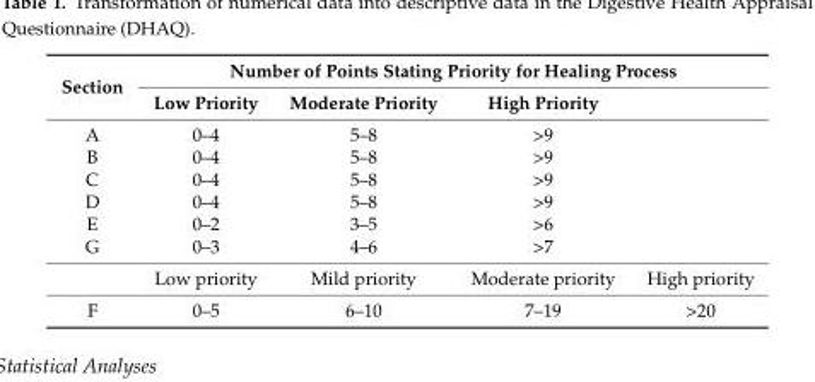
<table><thead><tr><td rowspan="2">Section</td><td colspan="4">Number of Points Stating Priority for Healing Process</td></tr><tr><td>Low Priority</td><td>Moderate Priority</td><td>High Priority</td><td></td></tr></thead><tbody><tr><td>A</td><td>0–4</td><td>5–8</td><td>&gt;9</td><td></td></tr><tr><td>B</td><td>0–4</td><td>5–8</td><td>&gt;9</td><td></td></tr><tr><td>C</td><td>0–4</td><td>5–8</td><td>&gt;9</td><td></td></tr><tr><td>D</td><td>0–4</td><td>5–8</td><td>&gt;9</td><td></td></tr><tr><td>E</td><td>0–2</td><td>3–5</td><td>&gt;6</td><td></td></tr><tr><td rowspan="2">G</td><td>0–3</td><td>4–6</td><td>&gt;7</td><td></td></tr><tr><td>Low priority</td><td>Mild priority</td><td>Moderate priority</td><td>High priority</td></tr><tr><td>F</td><td>0–5</td><td>6–10</td><td>7–19</td><td>&gt;20</td></tr></tbody></table>